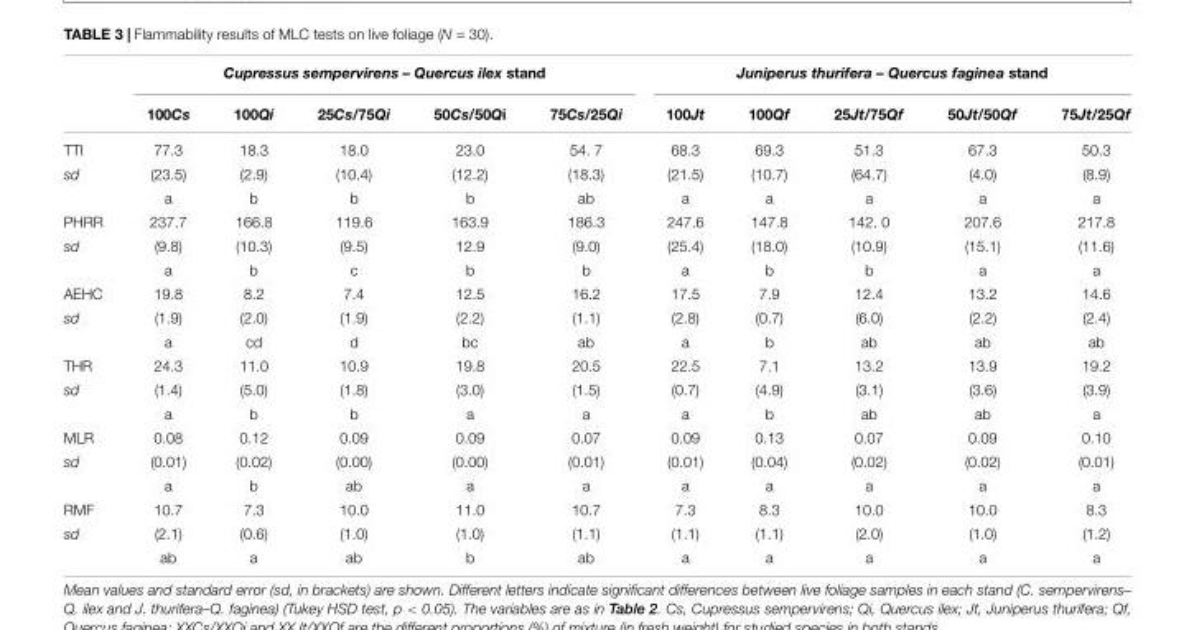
<table><thead><tr><td rowspan="2"></td><td colspan="5">Cupressus sempervirens – Quercus ilex stand</td><td colspan="5">Juniperus thurifera – Quercus faginea stand</td></tr><tr><td>100Cs</td><td>100Qi</td><td>25Cs/75Qi</td><td>50Cs/50Qi</td><td>75Cs/25Qi</td><td>100Jt</td><td>100Qf</td><td>25Jt/75Qf</td><td>50Jt/50Qf</td><td>75Jt/25Qf</td></tr></thead><tbody><tr><td>TTI</td><td>77.3</td><td>18.3</td><td>18.0</td><td>23.0</td><td>54. 7</td><td>68.3</td><td>69.3</td><td>51.3</td><td>67.3</td><td>50.3</td></tr><tr><td rowspan="2">sd</td><td>(23.5)</td><td>(2.9)</td><td>(10.4)</td><td>(12.2)</td><td>(18.3)</td><td>(21.5)</td><td>(10.7)</td><td>(64.7)</td><td>(4.0)</td><td>(8.9)</td></tr><tr><td>a</td><td>b</td><td>b</td><td>b</td><td>ab</td><td>a</td><td>a</td><td>a</td><td>a</td><td>a</td></tr><tr><td>PHRR</td><td>237.7</td><td>166.8</td><td>119.6</td><td>163.9</td><td>186.3</td><td>247.6</td><td>147.8</td><td>142. 0</td><td>207.6</td><td>217.8</td></tr><tr><td rowspan="2">sd</td><td>(9.8)</td><td>(10.3)</td><td>(9.5)</td><td>12.9</td><td>(9.0)</td><td>(25.4)</td><td>(18.0)</td><td>(10.9)</td><td>(15.1)</td><td>(11.6)</td></tr><tr><td>a</td><td>b</td><td>c</td><td>b</td><td>b</td><td>a</td><td>b</td><td>b</td><td>a</td><td>a</td></tr><tr><td>AEHC</td><td>19.8</td><td>8.2</td><td>7.4</td><td>12.5</td><td>16.2</td><td>17.5</td><td>7.9</td><td>12.4</td><td>13.2</td><td>14.6</td></tr><tr><td rowspan="2">sd</td><td>(1.9)</td><td>(2.0)</td><td>(1.9)</td><td>(2.2)</td><td>(1.1)</td><td>(2.8)</td><td>(0.7)</td><td>(6.0)</td><td>(2.2)</td><td>(2.4)</td></tr><tr><td>a</td><td>cd</td><td>d</td><td>bc</td><td>ab</td><td>a</td><td>b</td><td>ab</td><td>ab</td><td>ab</td></tr><tr><td>THR</td><td>24.3</td><td>11.0</td><td>10.9</td><td>19.8</td><td>20.5</td><td>22.5</td><td>7.1</td><td>13.2</td><td>13.9</td><td>19.2</td></tr><tr><td rowspan="2">sd</td><td>(1.4)</td><td>(5.0)</td><td>(1.8)</td><td>(3.0)</td><td>(1.5)</td><td>(0.7)</td><td>(4.9)</td><td>(3.1)</td><td>(3.6)</td><td>(3.9)</td></tr><tr><td>a</td><td>b</td><td>b</td><td>a</td><td>a</td><td>a</td><td>b</td><td>ab</td><td>ab</td><td>a</td></tr><tr><td>MLR</td><td>0.08</td><td>0.12</td><td>0.09</td><td>0.09</td><td>0.07</td><td>0.09</td><td>0.13</td><td>0.07</td><td>0.09</td><td>0.10</td></tr><tr><td rowspan="2">sd</td><td>(0.01)</td><td>(0.02)</td><td>(0.00)</td><td>(0.00)</td><td>(0.01)</td><td>(0.01)</td><td>(0.04)</td><td>(0.02)</td><td>(0.02)</td><td>(0.01)</td></tr><tr><td>a</td><td>b</td><td>ab</td><td>a</td><td>a</td><td>a</td><td>a</td><td>a</td><td>a</td><td>a</td></tr><tr><td>RMF</td><td>10.7</td><td>7.3</td><td>10.0</td><td>11.0</td><td>10.7</td><td>7.3</td><td>8.3</td><td>10.0</td><td>10.0</td><td>8.3</td></tr><tr><td rowspan="2">sd</td><td>(2.1)</td><td>(0.6)</td><td>(1.0)</td><td>(1.0)</td><td>(1.1)</td><td>(1.1)</td><td>(1.1)</td><td>(2.0)</td><td>(1.0)</td><td>(1.2)</td></tr><tr><td>ab</td><td>a</td><td>ab</td><td>b</td><td>ab</td><td>a</td><td>a</td><td>a</td><td>a</td><td>a</td></tr></tbody></table>